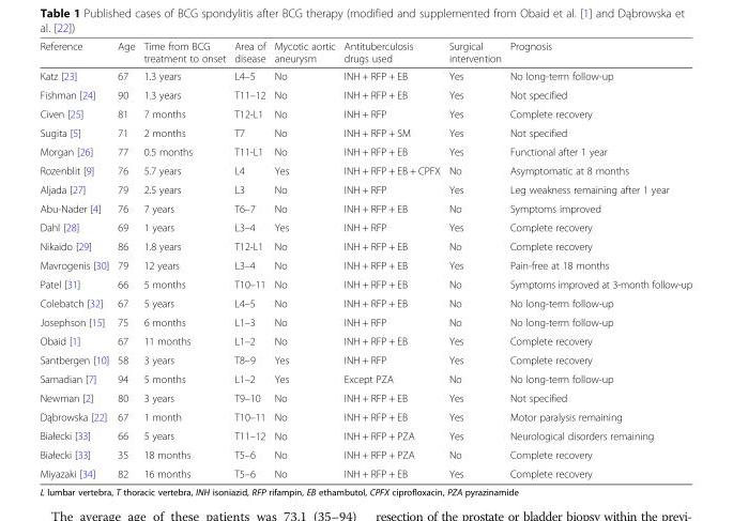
<table><thead><tr><td>Reference</td><td>Age</td><td>Time from BCG treatment to onset</td><td>Area of disease</td><td>Mycotic aortic aneurysm</td><td>Antituberculosis drugs used</td><td>Surgical intervention</td><td>Prognosis</td></tr></thead><tbody><tr><td>Katz [23]</td><td>67</td><td>1.3 years</td><td>L4–5</td><td>No</td><td>INH + RFP + EB</td><td>Yes</td><td>No long-term follow-up</td></tr><tr><td>Fishman [24]</td><td>90</td><td>1.3 years</td><td>T11–12</td><td>No</td><td>INH + RFP + EB</td><td>Yes</td><td>Not specified</td></tr><tr><td>Civen [25]</td><td>81</td><td>7 months</td><td>T12-L1</td><td>No</td><td>INH + RFP</td><td>Yes</td><td>Complete recovery</td></tr><tr><td>Sugita [5]</td><td>71</td><td>2 months</td><td>T7</td><td>No</td><td>INH + RFP + SM</td><td>Yes</td><td>Not specified</td></tr><tr><td>Morgan [26]</td><td>77</td><td>0.5 months</td><td>T11-L1</td><td>No</td><td>INH + RFP + EB</td><td>Yes</td><td>Functional after 1 year</td></tr><tr><td>Rozenblit [9]</td><td>76</td><td>5.7 years</td><td>L4</td><td>Yes</td><td>INH + RFP + EB + CPFX</td><td>No</td><td>Asymptomatic at 8 months</td></tr><tr><td>Aljada [27]</td><td>79</td><td>2.5 years</td><td>L3</td><td>No</td><td>INH + RFP</td><td>Yes</td><td>Leg weakness remaining after 1 year</td></tr><tr><td>Abu-Nader [4]</td><td>76</td><td>7 years</td><td>T6–7</td><td>No</td><td>INH + RFP + EB</td><td>No</td><td>Symptoms improved</td></tr><tr><td>Dahl [28]</td><td>69</td><td>1 years</td><td>L3–4</td><td>Yes</td><td>INH + RFP</td><td>Yes</td><td>Complete recovery</td></tr><tr><td>Nikaido [29]</td><td>86</td><td>1.8 years</td><td>T12-L1</td><td>No</td><td>INH + RFP + EB</td><td>No</td><td>Complete recovery</td></tr><tr><td>Mavrogenis [30]</td><td>79</td><td>12 years</td><td>L3–4</td><td>No</td><td>INH + RFP + EB</td><td>Yes</td><td>Pain-free at 18 months</td></tr><tr><td>Patel [31]</td><td>66</td><td>5 months</td><td>T10–11</td><td>No</td><td>INH + RFP + EB</td><td>No</td><td>Symptoms improved at 3-month follow-up</td></tr><tr><td>Colebatch [32]</td><td>67</td><td>5 years</td><td>L4–5</td><td>No</td><td>INH + RFP + EB</td><td>No</td><td>No long-term follow-up</td></tr><tr><td>Josephson [15]</td><td>75</td><td>6 months</td><td>L1–3</td><td>No</td><td>INH + RFP</td><td>No</td><td>No long-term follow-up</td></tr><tr><td>Obaid [1]</td><td>67</td><td>11 months</td><td>L1–2</td><td>No</td><td>INH + RFP + EB</td><td>Yes</td><td>Complete recovery</td></tr><tr><td>Santbergen [10]</td><td>58</td><td>3 years</td><td>T8–9</td><td>Yes</td><td>INH + RFP</td><td>Yes</td><td>Complete recovery</td></tr><tr><td>Samadian [7]</td><td>94</td><td>5 months</td><td>L1–2</td><td>Yes</td><td>Except PZA</td><td>No</td><td>No long-term follow-up</td></tr><tr><td>Newman [2]</td><td>80</td><td>3 years</td><td>T9–10</td><td>No</td><td>INH + RFP + EB</td><td>Yes</td><td>Not specified</td></tr><tr><td>Dąbrowska [22]</td><td>67</td><td>1 month</td><td>T10–11</td><td>No</td><td>INH + RFP + EB</td><td>Yes</td><td>Motor paralysis remaining</td></tr><tr><td>Białecki [33]</td><td>66</td><td>5 years</td><td>T11–12</td><td>No</td><td>INH + RFP + PZA</td><td>Yes</td><td>Neurological disorders remaining</td></tr><tr><td>Białecki [33]</td><td>35</td><td>18 months</td><td>T5–6</td><td>No</td><td>INH + RFP + PZA</td><td>No</td><td>Complete recovery</td></tr><tr><td>Miyazaki [34]</td><td>82</td><td>16 months</td><td>T5–6</td><td>No</td><td>INH + RFP + EB</td><td>Yes</td><td>Complete recovery</td></tr></tbody></table>